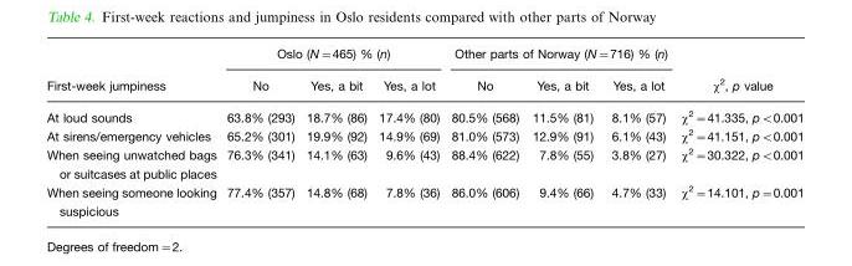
<table><thead><tr><td rowspan="2">First-week jumpiness</td><td colspan="3">Oslo (N=465) % (n)</td><td colspan="3">Other parts of Norway (N=716) % (n)</td><td rowspan="2">χ<sup>2</sup>, p value</td></tr><tr><td>No</td><td>Yes, a bit</td><td>Yes, a lot</td><td>No</td><td>Yes, a bit</td><td>Yes, a lot</td></tr></thead><tbody><tr><td>At loud sounds</td><td>63.8% (293)</td><td>18.7% (86)</td><td>17.4% (80)</td><td>80.5% (568)</td><td>11.5% (81)</td><td>8.1% (57)</td><td>χ<sup>2</sup>=41.335, p&lt;0.001</td></tr><tr><td>At sirens/emergency vehicles</td><td>65.2% (301)</td><td>19.9% (92)</td><td>14.9% (69)</td><td>81.0% (573)</td><td>12.9% (91)</td><td>6.1% (43)</td><td>χ<sup>2</sup>=41.151, p&lt;0.001</td></tr><tr><td>When seeing unwatched bags or suitcases at public places</td><td>76.3% (341)</td><td>14.1% (63)</td><td>9.6% (43)</td><td>88.4% (622)</td><td>7.8% (55)</td><td>3.8% (27)</td><td>χ<sup>2</sup>=30.322, p&lt;0.001</td></tr><tr><td>When seeing someone looking suspicious</td><td>77.4% (357)</td><td>14.8% (68)</td><td>7.8% (36)</td><td>86.0% (606)</td><td>9.4% (66)</td><td>4.7% (33)</td><td>χ<sup>2</sup>=14.101, p=0.001</td></tr></tbody></table>